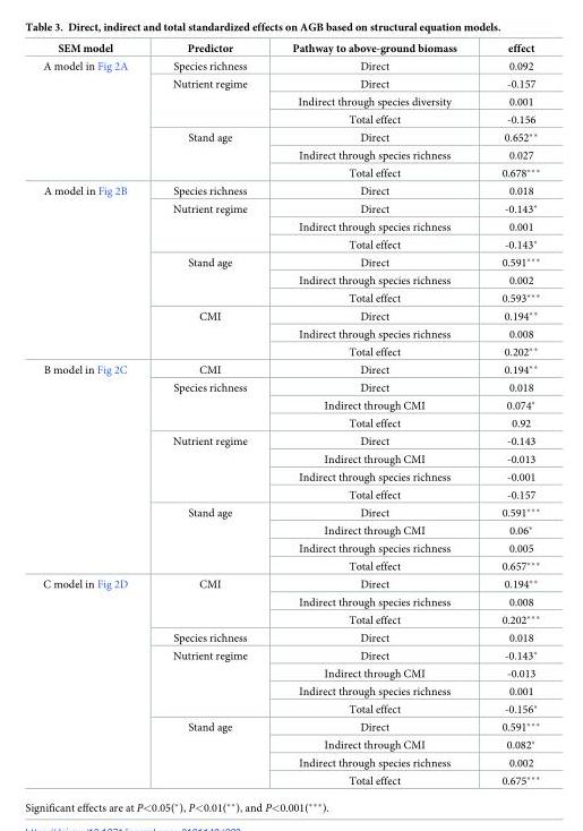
<table><thead><tr><td>SEM model</td><td>Predictor</td><td>Pathway to above-ground biomass</td><td>effect</td></tr></thead><tbody><tr><td rowspan="7">A model in Fig 2A</td><td>Species richness</td><td>Direct</td><td>0.092</td></tr><tr><td rowspan="3">Nutrient regime</td><td>Direct</td><td>-0.157</td></tr><tr><td>Indirect through species diversity</td><td>0.001</td></tr><tr><td>Total effect</td><td>-0.156</td></tr><tr><td rowspan="3">Stand age</td><td>Direct</td><td>0.652**</td></tr><tr><td>Indirect through species richness</td><td>0.027</td></tr><tr><td>Total effect</td><td>0.678***</td></tr><tr><td rowspan="10">A model in Fig 2B</td><td>Species richness</td><td>Direct</td><td>0.018</td></tr><tr><td rowspan="3">Nutrient regime</td><td>Direct</td><td>-0.143*</td></tr><tr><td>Indirect through species richness</td><td>0.001</td></tr><tr><td>Total effect</td><td>-0.143*</td></tr><tr><td rowspan="3">Stand age</td><td>Direct</td><td>0.591***</td></tr><tr><td>Indirect through species richness</td><td>0.002</td></tr><tr><td>Total effect</td><td>0.593***</td></tr><tr><td rowspan="3">CMI</td><td>Direct</td><td>0.194**</td></tr><tr><td>Indirect through species richness</td><td>0.008</td></tr><tr><td>Total effect</td><td>0.202**</td></tr><tr><td rowspan="12">B model in Fig 2C</td><td>CMI</td><td>Direct</td><td>0.194**</td></tr><tr><td rowspan="3">Species richness</td><td>Direct</td><td>0.018</td></tr><tr><td>Indirect through CMI</td><td>0.074*</td></tr><tr><td>Total effect</td><td>0.92</td></tr><tr><td rowspan="4">Nutrient regime</td><td>Direct</td><td>-0.143</td></tr><tr><td>Indirect through CMI</td><td>-0.013</td></tr><tr><td>Indirect through species richness</td><td>-0.001</td></tr><tr><td>Total effect</td><td>-0.157</td></tr><tr><td rowspan="4">Stand age</td><td>Direct</td><td>0.591***</td></tr><tr><td>Indirect through CMI</td><td>0.06*</td></tr><tr><td>Indirect through species richness</td><td>0.005</td></tr><tr><td>Total effect</td><td>0.657***</td></tr><tr><td rowspan="12">C model in Fig 2D</td><td rowspan="3">CMI</td><td>Direct</td><td>0.194**</td></tr><tr><td>Indirect through species richness</td><td>0.008</td></tr><tr><td>Total effect</td><td>0.202***</td></tr><tr><td>Species richness</td><td>Direct</td><td>0.018</td></tr><tr><td rowspan="4">Nutrient regime</td><td>Direct</td><td>-0.143*</td></tr><tr><td>Indirect through CMI</td><td>-0.013</td></tr><tr><td>Indirect through species richness</td><td>0.001</td></tr><tr><td>Total effect</td><td>-0.156*</td></tr><tr><td rowspan="4">Stand age</td><td>Direct</td><td>0.591***</td></tr><tr><td>Indirect through CMI</td><td>0.082*</td></tr><tr><td>Indirect through species richness</td><td>0.002</td></tr><tr><td>Total effect</td><td>0.675***</td></tr></tbody></table>